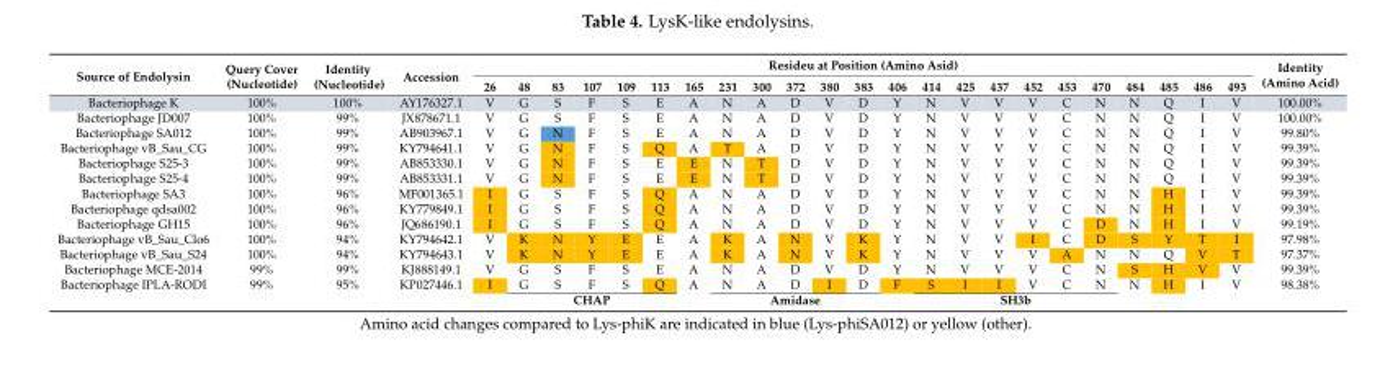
<table><thead><tr><td rowspan="2">Source of Endolysin</td><td rowspan="2">Query Cover (Nucleotide)</td><td rowspan="2">Identity (Nucleotide)</td><td rowspan="2">Accession</td><td colspan="23">Resideu at Position (Amino Asid)</td><td rowspan="2">Identity (Amino Acid)</td></tr><tr><td>26</td><td>48</td><td>83</td><td>107</td><td>109</td><td>113</td><td>165</td><td>231</td><td>300</td><td>372</td><td>380</td><td>383</td><td>406</td><td>414</td><td>425</td><td>437</td><td>452</td><td>453</td><td>470</td><td>484</td><td>485</td><td>486</td><td>493</td></tr></thead><tbody><tr><td>Bacteriophage K</td><td>100%</td><td>100%</td><td>AY176327.1</td><td>V</td><td>G</td><td>S</td><td>F</td><td>S</td><td>E</td><td>A</td><td>N</td><td>A</td><td>D</td><td>V</td><td>D</td><td>Y</td><td>N</td><td>V</td><td>V</td><td>V</td><td>C</td><td>N</td><td>N</td><td>Q</td><td>I</td><td>V</td><td>100.00%</td></tr><tr><td>Bacteriophage JD007</td><td>100%</td><td>99%</td><td>JX878671.1</td><td>V</td><td>G</td><td>S</td><td>F</td><td>S</td><td>E</td><td>A</td><td>N</td><td>A</td><td>D</td><td>V</td><td>D</td><td>Y</td><td>N</td><td>V</td><td>V</td><td>V</td><td>C</td><td>N</td><td>N</td><td>Q</td><td>I</td><td>V</td><td>100.00%</td></tr><tr><td>Bacteriophage SA012</td><td>100%</td><td>99%</td><td>AB903967.1</td><td>V</td><td>G</td><td>N</td><td>F</td><td>S</td><td>E</td><td>A</td><td>N</td><td>A</td><td>D</td><td>V</td><td>D</td><td>Y</td><td>N</td><td>V</td><td>V</td><td>V</td><td>C</td><td>N</td><td>N</td><td>Q</td><td>I</td><td>V</td><td>99.80%</td></tr><tr><td>Bacteriophage vB_Sau_CG</td><td>100%</td><td>99%</td><td>KY794641.1</td><td>V</td><td>G</td><td>N</td><td>F</td><td>S</td><td>Q</td><td>A</td><td>T</td><td>A</td><td>D</td><td>V</td><td>D</td><td>Y</td><td>N</td><td>V</td><td>V</td><td>V</td><td>C</td><td>N</td><td>N</td><td>Q</td><td>I</td><td>V</td><td>99.39%</td></tr><tr><td>Bacteriophage S25-3</td><td>100%</td><td>99%</td><td>AB853330.1</td><td>V</td><td>G</td><td>N</td><td>F</td><td>S</td><td>E</td><td>E</td><td>N</td><td>T</td><td>D</td><td>V</td><td>D</td><td>Y</td><td>N</td><td>V</td><td>V</td><td>V</td><td>C</td><td>N</td><td>N</td><td>Q</td><td>I</td><td>V</td><td>99.39%</td></tr><tr><td>Bacteriophage S25-4</td><td>100%</td><td>99%</td><td>AB853331.1</td><td>V</td><td>G</td><td>N</td><td>F</td><td>S</td><td>E</td><td>E</td><td>N</td><td>T</td><td>D</td><td>V</td><td>D</td><td>Y</td><td>N</td><td>V</td><td>V</td><td>V</td><td>C</td><td>N</td><td>N</td><td>Q</td><td>I</td><td>V</td><td>99.39%</td></tr><tr><td>Bacteriophage SA3</td><td>100%</td><td>96%</td><td>MF001365.1</td><td>I</td><td>G</td><td>S</td><td>F</td><td>S</td><td>Q</td><td>A</td><td>N</td><td>A</td><td>D</td><td>V</td><td>D</td><td>Y</td><td>N</td><td>V</td><td>V</td><td>V</td><td>C</td><td>N</td><td>N</td><td>H</td><td>I</td><td>V</td><td>99.39%</td></tr><tr><td>Bacteriophage qdsa002</td><td>100%</td><td>96%</td><td>KY779849.1</td><td>I</td><td>G</td><td>S</td><td>F</td><td>S</td><td>Q</td><td>A</td><td>N</td><td>A</td><td>D</td><td>V</td><td>D</td><td>Y</td><td>N</td><td>V</td><td>V</td><td>V</td><td>C</td><td>N</td><td>N</td><td>H</td><td>I</td><td>V</td><td>99.39%</td></tr><tr><td>Bacteriophage GH15</td><td>100%</td><td>96%</td><td>JQ686190.1</td><td>I</td><td>G</td><td>S</td><td>F</td><td>S</td><td>Q</td><td>A</td><td>N</td><td>A</td><td>D</td><td>V</td><td>D</td><td>Y</td><td>N</td><td>V</td><td>V</td><td>V</td><td>C</td><td>D</td><td>N</td><td>H</td><td>I</td><td>V</td><td>99.19%</td></tr><tr><td>Bacteriophage vB_Sau_Clo6</td><td>100%</td><td>94%</td><td>KY794642.1</td><td>V</td><td>K</td><td>N</td><td>Y</td><td>E</td><td>E</td><td>A</td><td>K</td><td>A</td><td>N</td><td>V</td><td>K</td><td>Y</td><td>N</td><td>V</td><td>V</td><td>I</td><td>C</td><td>D</td><td>S</td><td>Y</td><td>T</td><td>I</td><td>97.98%</td></tr><tr><td>Bacteriophage vB_Sau_S24</td><td>100%</td><td>94%</td><td>KY794643.1</td><td>V</td><td>K</td><td>N</td><td>Y</td><td>E</td><td>E</td><td>A</td><td>K</td><td>A</td><td>N</td><td>V</td><td>K</td><td>Y</td><td>N</td><td>V</td><td>V</td><td>V</td><td>A</td><td>N</td><td>N</td><td>Q</td><td>V</td><td>T</td><td>97.37%</td></tr><tr><td>Bacteriophage MCE-2014</td><td>99%</td><td>99%</td><td>KJ888149.1</td><td>V</td><td>G</td><td>S</td><td>F</td><td>S</td><td>E</td><td>A</td><td>N</td><td>A</td><td>D</td><td>V</td><td>D</td><td>Y</td><td>N</td><td>V</td><td>V</td><td>V</td><td>C</td><td>N</td><td>S</td><td>H</td><td>V</td><td>V</td><td>99.39%</td></tr><tr><td rowspan="2">Bacteriophage IPLA-RODI</td><td>99%</td><td>95%</td><td>KP027446.1</td><td>I</td><td>G</td><td>S</td><td>F</td><td>S</td><td>Q</td><td>A</td><td>N</td><td>A</td><td>D</td><td>I</td><td>D</td><td>F</td><td>S</td><td>I</td><td>I</td><td>V</td><td>C</td><td>N</td><td>N</td><td>H</td><td>I</td><td>V</td><td>98.38%</td></tr><tr><td></td><td></td><td></td><td></td><td colspan="5">CHAP</td><td></td><td colspan="5">Amidase</td><td></td><td colspan="6">SH3b</td><td></td><td></td><td></td><td></td><td></td></tr></tbody></table>